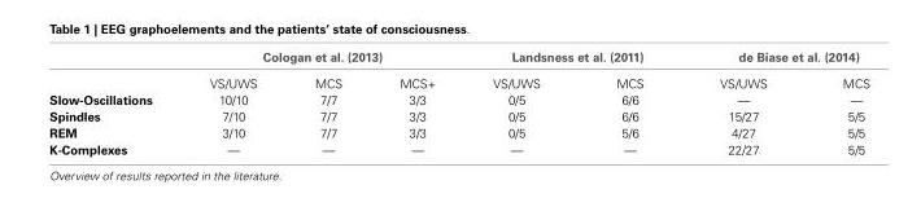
<table><thead><tr><td rowspan="2"></td><td colspan="3">Cologan et al. (2013)</td><td colspan="2">Landsness et al. (2011)</td><td colspan="2">de Biase et al. (2014)</td></tr><tr><td>VS/UWS</td><td>MCS</td><td>MCS+</td><td>VS/UWS</td><td>MCS</td><td>VS/UWS</td><td>MCS</td></tr></thead><tbody><tr><td>Slow-Oscillations</td><td>10/10</td><td>7/7</td><td>3/3</td><td>0/5</td><td>6/6</td><td>—</td><td>—</td></tr><tr><td>Spindles</td><td>7/10</td><td>7/7</td><td>3/3</td><td>0/5</td><td>6/6</td><td>15/27</td><td>5/5</td></tr><tr><td>REM</td><td>3/10</td><td>7/7</td><td>3/3</td><td>0/5</td><td>5/6</td><td>4/27</td><td>5/5</td></tr><tr><td>K-Complexes</td><td>—</td><td>—</td><td>—</td><td>—</td><td>—</td><td>22/27</td><td>5/5</td></tr></tbody></table>